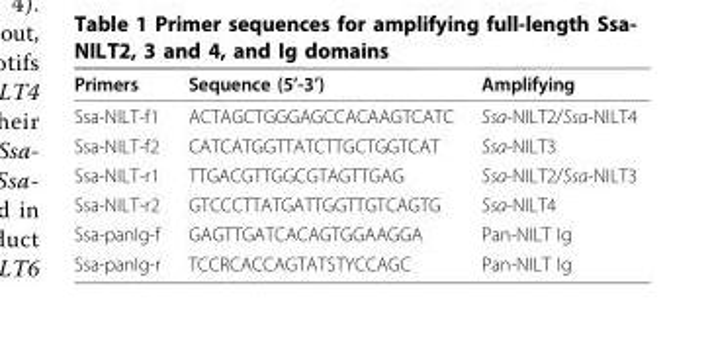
<table><thead><tr><td>Primers</td><td>Sequence (5’-3’)</td><td>Amplifying</td></tr></thead><tbody><tr><td>Ssa-NILT-f1</td><td>ACTAGCTGGGAGCCACAAGTCATC</td><td>Ssa-NILT2/Ssa-NILT4</td></tr><tr><td>Ssa-NILT-f2</td><td>CATCATGGTTATCTTGCTGGTCAT</td><td>Ssa-NILT3</td></tr><tr><td>Ssa-NILT-r1</td><td>TTGACGTTGGCGTAGTTGAG</td><td>Ssa-NILT2/Ssa-NILT3</td></tr><tr><td>Ssa-NILT-r2</td><td>GTCCCTTATGATTGGTTGTCAGTG</td><td>Ssa-NILT4</td></tr><tr><td>Ssa-panIg-f</td><td>GAGTTGATCACAGTGGAAGGA</td><td>Pan-NILT Ig</td></tr><tr><td>Ssa-panIg-r</td><td>TCCRCACCAGTATSTYCCAGC</td><td>Pan-NILT Ig</td></tr></tbody></table>